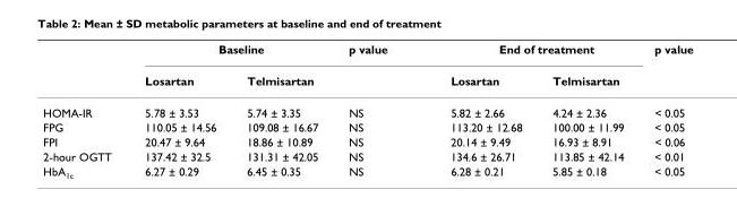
<table><thead><tr><td rowspan="2"></td><td colspan="2">Baseline</td><td rowspan="2">p value</td><td colspan="2">End of treatment</td><td rowspan="2">p value</td></tr><tr><td>Losartan</td><td>Telmisartan</td><td>Losartan</td><td>Telmisartan</td></tr></thead><tbody><tr><td>HOMA-IR</td><td>5.78 ± 3.53</td><td>5.74 ± 3.35</td><td>NS</td><td>5.82 ± 2.66</td><td>4.24 ± 2.36</td><td>&lt; 0.05</td></tr><tr><td>FPG</td><td>110.05 ± 14.56</td><td>109.08 ± 16.67</td><td>NS</td><td>113.20 ± 12.68</td><td>100.00 ± 11.99</td><td>&lt; 0.05</td></tr><tr><td>FPI</td><td>20.47 ± 9.64</td><td>18.86 ± 10.89</td><td>NS</td><td>20.14 ± 9.49</td><td>16.93 ± 8.91</td><td>&lt; 0.06</td></tr><tr><td>2-hour OGTT</td><td>137.42 ± 32.5</td><td>131.31 ± 42.05</td><td>NS</td><td>134.6 ± 26.71</td><td>113.85 ± 42.14</td><td>&lt; 0.01</td></tr><tr><td>HbA<sub>1c</sub></td><td>6.27 ± 0.29</td><td>6.45 ± 0.35</td><td>NS</td><td>6.28 ± 0.21</td><td>5.85 ± 0.18</td><td>&lt; 0.05</td></tr></tbody></table>